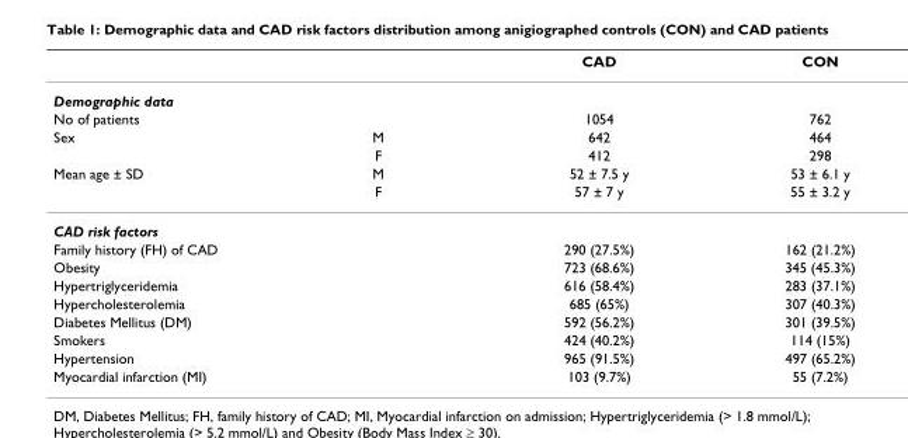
<table><thead><tr><td></td><td></td><td>CAD</td><td>CON</td></tr></thead><tbody><tr><td colspan="4">Demographic data</td></tr><tr><td>No of patients</td><td></td><td>1054</td><td>762</td></tr><tr><td rowspan="2">Sex</td><td>M</td><td>642</td><td>464</td></tr><tr><td>F</td><td>412</td><td>298</td></tr><tr><td rowspan="2">Mean age ± SD</td><td>M</td><td>52 ± 7.5 y</td><td>53 ± 6.1 y</td></tr><tr><td>F</td><td>57 ± 7 y</td><td>55 ± 3.2 y</td></tr><tr><td colspan="4">CAD risk factors</td></tr><tr><td>Family history (FH) of CAD</td><td></td><td>290 (27.5%)</td><td>162 (21.2%)</td></tr><tr><td>Obesity</td><td></td><td>723 (68.6%)</td><td>345 (45.3%)</td></tr><tr><td>Hypertriglyceridemia</td><td></td><td>616 (58.4%)</td><td>283 (37.1%)</td></tr><tr><td>Hypercholesterolemia</td><td></td><td>685 (65%)</td><td>307 (40.3%)</td></tr><tr><td>Diabetes Mellitus (DM)</td><td></td><td>592 (56.2%)</td><td>301 (39.5%)</td></tr><tr><td>Smokers</td><td></td><td>424 (40.2%)</td><td>114 (15%)</td></tr><tr><td>Hypertension</td><td></td><td>965 (91.5%)</td><td>497 (65.2%)</td></tr><tr><td>Myocardial infarction (MI)</td><td></td><td>103 (9.7%)</td><td>55 (7.2%)</td></tr></tbody></table>